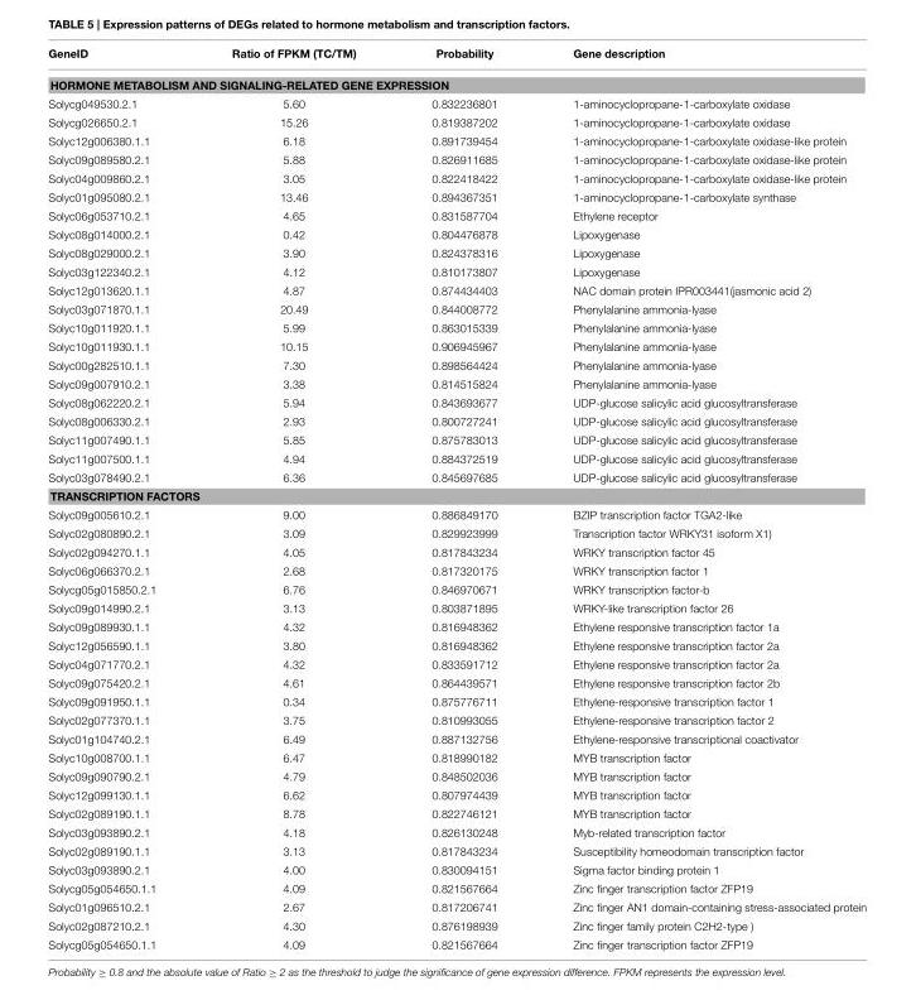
<table><thead><tr><td>GeneID</td><td>Ratio of FPKM (TC/TM)</td><td>Probability</td><td>Gene description</td></tr></thead><tbody><tr><td colspan="4">HORMONE METABOLISM AND SIGNALING-RELATED GENE EXPRESSION</td></tr><tr><td>Solycg049530.2.1</td><td>5.60</td><td>0.832236801</td><td>1-aminocyclopropane-1-carboxylate oxidase</td></tr><tr><td>Solycg026650.2.1</td><td>15.26</td><td>0.819387202</td><td>1-aminocyclopropane-1-carboxylate oxidase</td></tr><tr><td>Solyc12g006380.1.1</td><td>6.18</td><td>0.891739454</td><td>1-aminocyclopropane-1-carboxylate oxidase-like protein</td></tr><tr><td>Solyc09g089580.2.1</td><td>5.88</td><td>0.826911685</td><td>1-aminocyclopropane-1-carboxylate oxidase-like protein</td></tr><tr><td>Solyc04g009860.2.1</td><td>3.05</td><td>0.822418422</td><td>1-aminocyclopropane-1-carboxylate oxidase-like protein</td></tr><tr><td>Solyc01g095080.2.1</td><td>13.46</td><td>0.894367351</td><td>1-aminocyclopropane-1-carboxylate synthase</td></tr><tr><td>Solyc06g053710.2.1</td><td>4.65</td><td>0.831587704</td><td>Ethylene receptor</td></tr><tr><td>Solyc08g014000.2.1</td><td>0.42</td><td>0.804476878</td><td>Lipoxygenase</td></tr><tr><td>Solyc08g029000.2.1</td><td>3.90</td><td>0.824378316</td><td>Lipoxygenase</td></tr><tr><td>Solyc03g122340.2.1</td><td>4.12</td><td>0.810173807</td><td>Lipoxygenase</td></tr><tr><td>Solyc12g013620.1.1</td><td>4.87</td><td>0.874434403</td><td>NAC domain protein IPR003441(jasmonic acid 2)</td></tr><tr><td>Solyc03g071870.1.1</td><td>20.49</td><td>0.844008772</td><td>Phenylalanine ammonia-lyase</td></tr><tr><td>Solyc10g011920.1.1</td><td>5.99</td><td>0.863015339</td><td>Phenylalanine ammonia-lyase</td></tr><tr><td>Solyc10g011930.1.1</td><td>10.15</td><td>0.906945967</td><td>Phenylalanine ammonia-lyase</td></tr><tr><td>Solyc00g282510.1.1</td><td>7.30</td><td>0.898564424</td><td>Phenylalanine ammonia-lyase</td></tr><tr><td>Solyc09g007910.2.1</td><td>3.38</td><td>0.814515824</td><td>Phenylalanine ammonia-lyase</td></tr><tr><td>Solyc08g062220.2.1</td><td>5.94</td><td>0.843693677</td><td>UDP-glucose salicylic acid glucosyltransferase</td></tr><tr><td>Solyc08g006330.2.1</td><td>2.93</td><td>0.800727241</td><td>UDP-glucose salicylic acid glucosyltransferase</td></tr><tr><td>Solyc11g007490.1.1</td><td>5.85</td><td>0.875783013</td><td>UDP-glucose salicylic acid glucosyltransferase</td></tr><tr><td>Solyc11g007500.1.1</td><td>4.94</td><td>0.884372519</td><td>UDP-glucose salicylic acid glucosyltransferase</td></tr><tr><td>Solyc03g078490.2.1</td><td>6.36</td><td>0.845697685</td><td>UDP-glucose salicylic acid glucosyltransferase</td></tr><tr><td colspan="4">TRANSCRIPTION FACTORS</td></tr><tr><td>Solyc09g005610.2.1</td><td>9.00</td><td>0.886849170</td><td>BZIP transcription factor TGA2-like</td></tr><tr><td>Solyc02g080890.2.1</td><td>3.09</td><td>0.829923999</td><td>Transcription factor WRKY31 isoform X1)</td></tr><tr><td>Solyc02g094270.1.1</td><td>4.05</td><td>0.817843234</td><td>WRKY transcription factor 45</td></tr><tr><td>Solyc06g066370.2.1</td><td>2.68</td><td>0.817320175</td><td>WRKY transcription factor 1</td></tr><tr><td>Solycg05g015850.2.1</td><td>6.76</td><td>0.846970671</td><td>WRKY transcription factor-b</td></tr><tr><td>Solyc09g014990.2.1</td><td>3.13</td><td>0.803871895</td><td>WRKY-like transcription factor 26</td></tr><tr><td>Solyc09g089930.1.1</td><td>4.32</td><td>0.816948362</td><td>Ethylene responsive transcription factor 1a</td></tr><tr><td>Solyc12g056590.1.1</td><td>3.80</td><td>0.816948362</td><td>Ethylene responsive transcription factor 2a</td></tr><tr><td>Solyc04g071770.2.1</td><td>4.32</td><td>0.833591712</td><td>Ethylene responsive transcription factor 2a</td></tr><tr><td>Solyc09g075420.2.1</td><td>4.61</td><td>0.864439571</td><td>Ethylene responsive transcription factor 2b</td></tr><tr><td>Solyc09g091950.1.1</td><td>0.34</td><td>0.875776711</td><td>Ethylene-responsive transcription factor 1</td></tr><tr><td>Solyc02g077370.1.1</td><td>3.75</td><td>0.810993055</td><td>Ethylene-responsive transcription factor 2</td></tr><tr><td>Solyc01g104740.2.1</td><td>6.49</td><td>0.887132756</td><td>Ethylene-responsive transcriptional coactivator</td></tr><tr><td>Solyc10g008700.1.1</td><td>6.47</td><td>0.818990182</td><td>MYB transcription factor</td></tr><tr><td>Solyc09g090790.2.1</td><td>4.79</td><td>0.848502036</td><td>MYB transcription factor</td></tr><tr><td>Solyc12g099130.1.1</td><td>6.62</td><td>0.807974439</td><td>MYB transcription factor</td></tr><tr><td>Solyc02g089190.1.1</td><td>8.78</td><td>0.822746121</td><td>MYB transcription factor</td></tr><tr><td>Solyc03g093890.2.1</td><td>4.18</td><td>0.826130248</td><td>Myb-related transcription factor</td></tr><tr><td>Solyc02g089190.1.1</td><td>3.13</td><td>0.817843234</td><td>Susceptibility homeodomain transcription factor</td></tr><tr><td>Solyc03g093890.2.1</td><td>4.00</td><td>0.830094151</td><td>Sigma factor binding protein 1</td></tr><tr><td>Solycg05g054650.1.1</td><td>4.09</td><td>0.821567664</td><td>Zinc finger transcription factor ZFP19</td></tr><tr><td>Solyc01g096510.2.1</td><td>2.67</td><td>0.817206741</td><td>Zinc finger AN1 domain-containing stress-associated protein</td></tr><tr><td>Solyc02g087210.2.1</td><td>4.30</td><td>0.876198939</td><td>Zinc finger family protein C2H2-type )</td></tr><tr><td>Solycg05g054650.1.1</td><td>4.09</td><td>0.821567664</td><td>Zinc finger transcription factor ZFP19</td></tr></tbody></table>